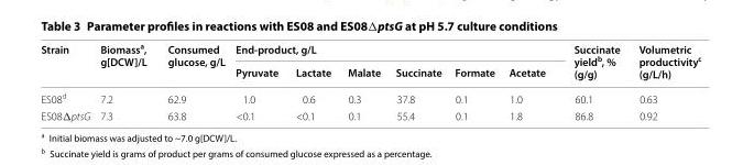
<table><thead><tr><td rowspan="2">Strain</td><td rowspan="2">Biomass<sup>a</sup>, g[DCW]/L</td><td rowspan="2">Consumed glucose, g/L</td><td colspan="6">End-product, g/L</td><td rowspan="2">Succinate yield<sup>b</sup>, % (g/g)</td><td rowspan="2">Volumetric productivity<sup>c</sup> (g/L/h)</td></tr><tr><td>Pyruvate</td><td>Lactate</td><td>Malate</td><td>Succinate</td><td>Formate</td><td>Acetate</td></tr></thead><tbody><tr><td>ES08<sup>d</sup></td><td>7.2</td><td>62.9</td><td>1.0</td><td>0.6</td><td>0.3</td><td>37.8</td><td>0.1</td><td>1.0</td><td>60.1</td><td>0.63</td></tr><tr><td>ES08ΔptsG</td><td>7.3</td><td>63.8</td><td>&lt;0.1</td><td>&lt;0.1</td><td>0.1</td><td>55.4</td><td>0.1</td><td>1.8</td><td>86.8</td><td>0.92</td></tr></tbody></table>